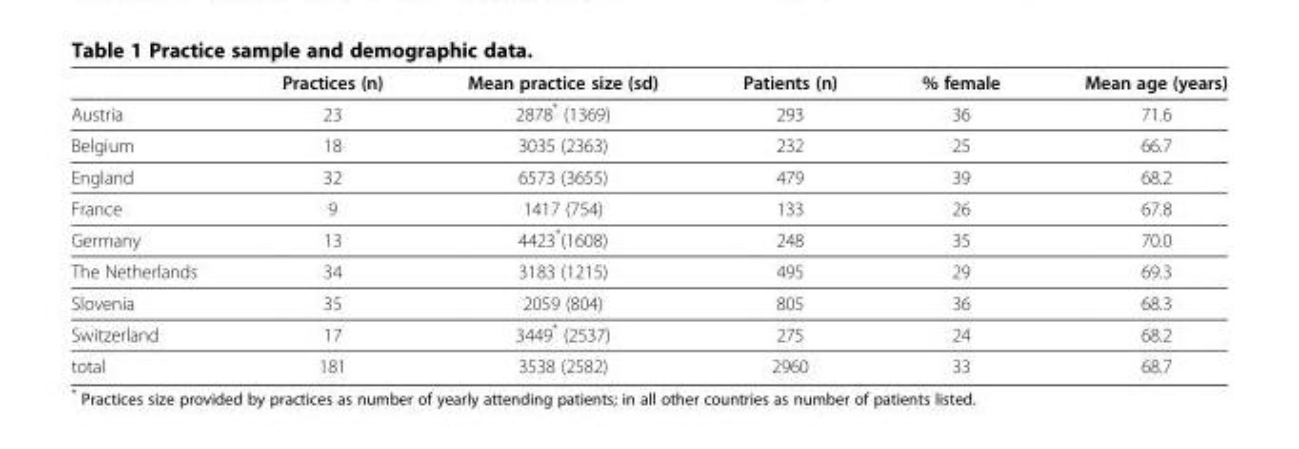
<table><thead><tr><td></td><td>Practices (n)</td><td>Mean practice size (sd)</td><td>Patients (n)</td><td>% female</td><td>Mean age (years)</td></tr></thead><tbody><tr><td>Austria</td><td>23</td><td>2878* (1369)</td><td>293</td><td>36</td><td>71.6</td></tr><tr><td>Belgium</td><td>18</td><td>3035 (2363)</td><td>232</td><td>25</td><td>66.7</td></tr><tr><td>England</td><td>32</td><td>6573 (3655)</td><td>479</td><td>39</td><td>68.2</td></tr><tr><td>France</td><td>9</td><td>1417 (754)</td><td>133</td><td>26</td><td>67.8</td></tr><tr><td>Germany</td><td>13</td><td>4423*(1608)</td><td>248</td><td>35</td><td>70.0</td></tr><tr><td>The Netherlands</td><td>34</td><td>3183 (1215)</td><td>495</td><td>29</td><td>69.3</td></tr><tr><td>Slovenia</td><td>35</td><td>2059 (804)</td><td>805</td><td>36</td><td>68.3</td></tr><tr><td>Switzerland</td><td>17</td><td>3449* (2537)</td><td>275</td><td>24</td><td>68.2</td></tr><tr><td>total</td><td>181</td><td>3538 (2582)</td><td>2960</td><td>33</td><td>68.7</td></tr></tbody></table>